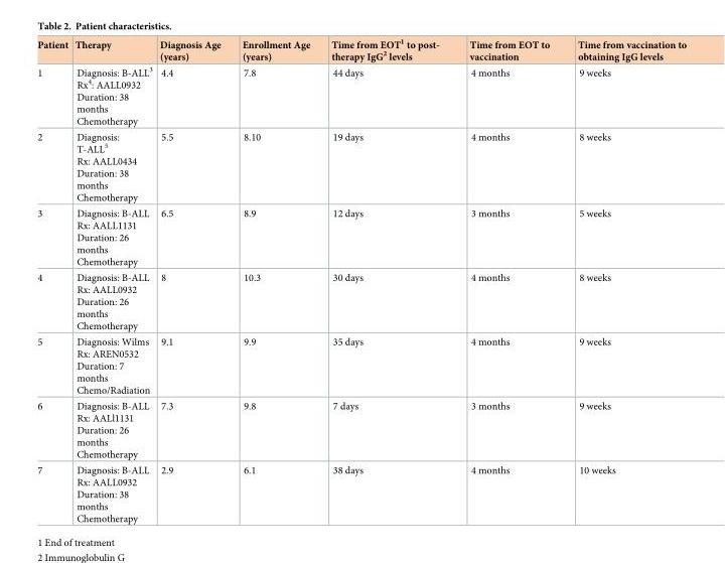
<table><thead><tr><td>Patient</td><td>Therapy</td><td>Diagnosis Age (years)</td><td>Enrollment Age (years)</td><td>Time from EOT<sup>1</sup> to post- therapy IgG<sup>2</sup> levels</td><td>Time from EOT to vaccination</td><td>Time from vaccination to obtaining IgG levels</td></tr></thead><tbody><tr><td>1</td><td>Diagnosis: B-ALL<sup>3</sup> Rx<sup>4</sup>: AALL0932 Duration: 38 months Chemotherapy</td><td>4.4</td><td>7.8</td><td>44 days</td><td>4 months</td><td>9 weeks</td></tr><tr><td>2</td><td>Diagnosis: T-ALL<sup>5</sup> Rx: AALL0434 Duration: 38 months Chemotherapy</td><td>5.5</td><td>8.10</td><td>19 days</td><td>4 months</td><td>8 weeks</td></tr><tr><td>3</td><td>Diagnosis: B-ALL Rx: AALL1131 Duration: 26 months Chemotherapy</td><td>6.5</td><td>8.9</td><td>12 days</td><td>3 months</td><td>5 weeks</td></tr><tr><td>4</td><td>Diagnosis: B-ALL Rx: AALL0932 Duration: 26 months Chemotherapy</td><td>8</td><td>10.3</td><td>30 days</td><td>4 months</td><td>8 weeks</td></tr><tr><td>5</td><td>Diagnosis: Wilms Rx: AREN0532 Duration: 7 months Chemo/Radiation</td><td>9.1</td><td>9.9</td><td>35 days</td><td>4 months</td><td>9 weeks</td></tr><tr><td>6</td><td>Diagnosis: B-ALL Rx: AALl1131 Duration: 26 months Chemotherapy</td><td>7.3</td><td>9.8</td><td>7 days</td><td>3 months</td><td>9 weeks</td></tr><tr><td>7</td><td>Diagnosis: B-ALL Rx: AALL0932 Duration: 38 months Chemotherapy</td><td>2.9</td><td>6.1</td><td>38 days</td><td>4 months</td><td>10 weeks</td></tr></tbody></table>